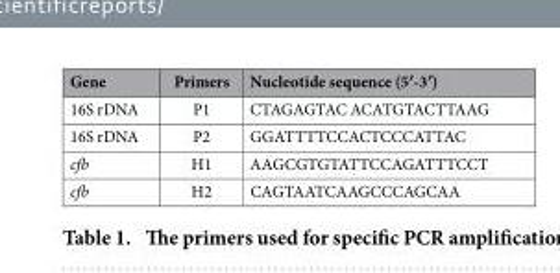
<table><thead><tr><td>Gene</td><td>Primers</td><td>Nucleotide sequence (5′-3′)</td></tr></thead><tbody><tr><td>16S rDNA</td><td>P1</td><td>CTAGAGTAC ACATGTACTTAAG</td></tr><tr><td>16S rDNA</td><td>P2</td><td>GGATTTTCCACTCCCATTAC</td></tr><tr><td>cfb</td><td>H1</td><td>AAGCGTGTATTCCAGATTTCCT</td></tr><tr><td>cfb</td><td>H2</td><td>CAGTAATCAAGCCCAGCAA</td></tr></tbody></table>